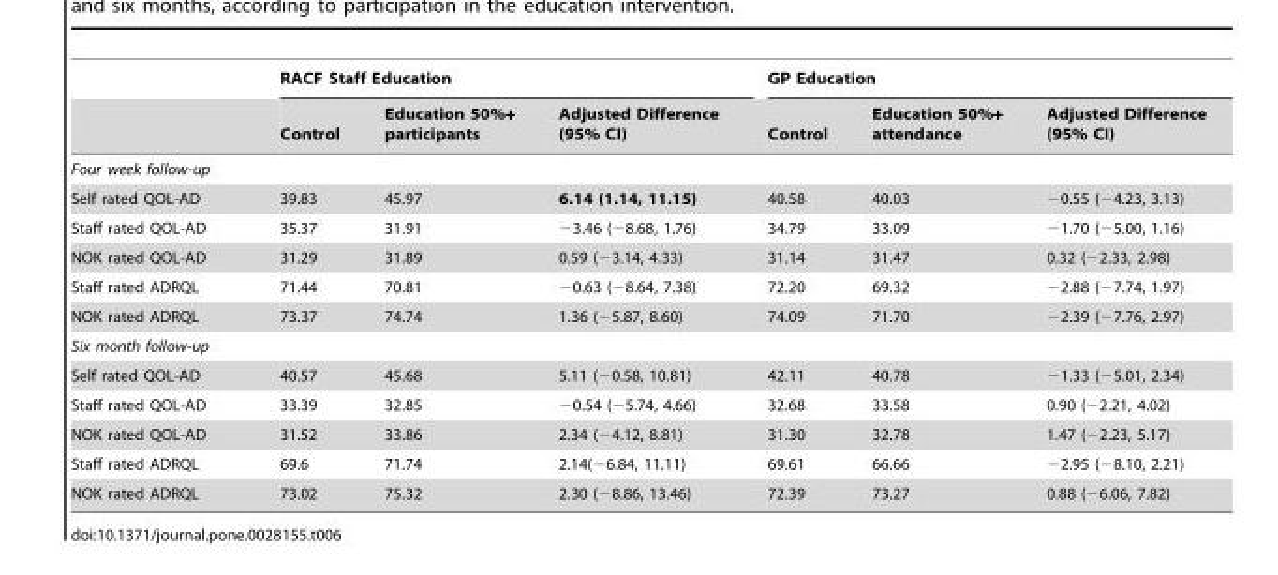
<table><thead><tr><td rowspan="2"></td><td colspan="3">RACF Staff Education</td><td colspan="3">GP Education</td></tr><tr><td>Control</td><td>Education 50%+ participants</td><td>Adjusted Difference (95% CI)</td><td>Control</td><td>Education 50%+ attendance</td><td>Adjusted Difference (95% CI)</td></tr></thead><tbody><tr><td colspan="7">Four week follow-up</td></tr><tr><td>Self rated QOL-AD</td><td>39.83</td><td>45.97</td><td>6.14 (1.14, 11.15)</td><td>40.58</td><td>40.03</td><td>−0.55 (−4.23, 3.13)</td></tr><tr><td>Staff rated QOL-AD</td><td>35.37</td><td>31.91</td><td>−3.46 (−8.68, 1.76)</td><td>34.79</td><td>33.09</td><td>−1.70 (−5.00, 1.16)</td></tr><tr><td>NOK rated QOL-AD</td><td>31.29</td><td>31.89</td><td>0.59 (−3.14, 4.33)</td><td>31.14</td><td>31.47</td><td>0.32 (−2.33, 2.98)</td></tr><tr><td>Staff rated ADRQL</td><td>71.44</td><td>70.81</td><td>−0.63 (−8.64, 7.38)</td><td>72.20</td><td>69.32</td><td>−2.88 (−7.74, 1.97)</td></tr><tr><td>NOK rated ADRQL</td><td>73.37</td><td>74.74</td><td>1.36 (−5.87, 8.60)</td><td>74.09</td><td>71.70</td><td>−2.39 (−7.76, 2.97)</td></tr><tr><td colspan="7">Six month follow-up</td></tr><tr><td>Self rated QOL-AD</td><td>40.57</td><td>45.68</td><td>5.11 (−0.58, 10.81)</td><td>42.11</td><td>40.78</td><td>−1.33 (−5.01, 2.34)</td></tr><tr><td>Staff rated QOL-AD</td><td>33.39</td><td>32.85</td><td>−0.54 (−5.74, 4.66)</td><td>32.68</td><td>33.58</td><td>0.90 (−2.21, 4.02)</td></tr><tr><td>NOK rated QOL-AD</td><td>31.52</td><td>33.86</td><td>2.34 (−4.12, 8.81)</td><td>31.30</td><td>32.78</td><td>1.47 (−2.23, 5.17)</td></tr><tr><td>Staff rated ADRQL</td><td>69.6</td><td>71.74</td><td>2.14(−6.84, 11.11)</td><td>69.61</td><td>66.66</td><td>−2.95 (−8.10, 2.21)</td></tr><tr><td>NOK rated ADRQL</td><td>73.02</td><td>75.32</td><td>2.30 (−8.86, 13.46)</td><td>72.39</td><td>73.27</td><td>0.88 (−6.06, 7.82)</td></tr></tbody></table>